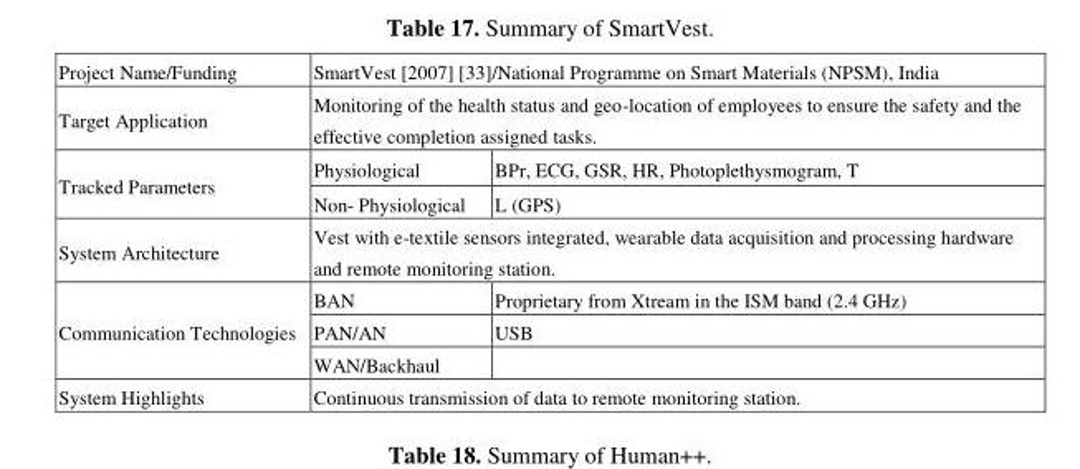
<table><tbody><tr><td>Project Name/Funding</td><td colspan="2">SmartVest [2007] [33]/National Programme on Smart Materials (NPSM), India</td></tr><tr><td>Target Application</td><td colspan="2">Monitoring of the health status and geo-location of employees to ensure the safety and the effective completion assigned tasks.</td></tr><tr><td rowspan="2">Tracked Parameters</td><td>Physiological</td><td>BPr, ECG, GSR, HR, Photoplethysmogram, T</td></tr><tr><td>Non- Physiological</td><td>L (GPS)</td></tr><tr><td>System Architecture</td><td colspan="2">Vest with e-textile sensors integrated, wearable data acquisition and processing hardware and remote monitoring station.</td></tr><tr><td rowspan="3">Communication Technologies</td><td>BAN</td><td>Proprietary from Xtream in the ISM band (2.4 GHz)</td></tr><tr><td>PAN/AN</td><td>USB</td></tr><tr><td>WAN/Backhaul</td><td></td></tr><tr><td>System Highlights</td><td colspan="2">Continuous transmission of data to remote monitoring station.</td></tr></tbody></table>